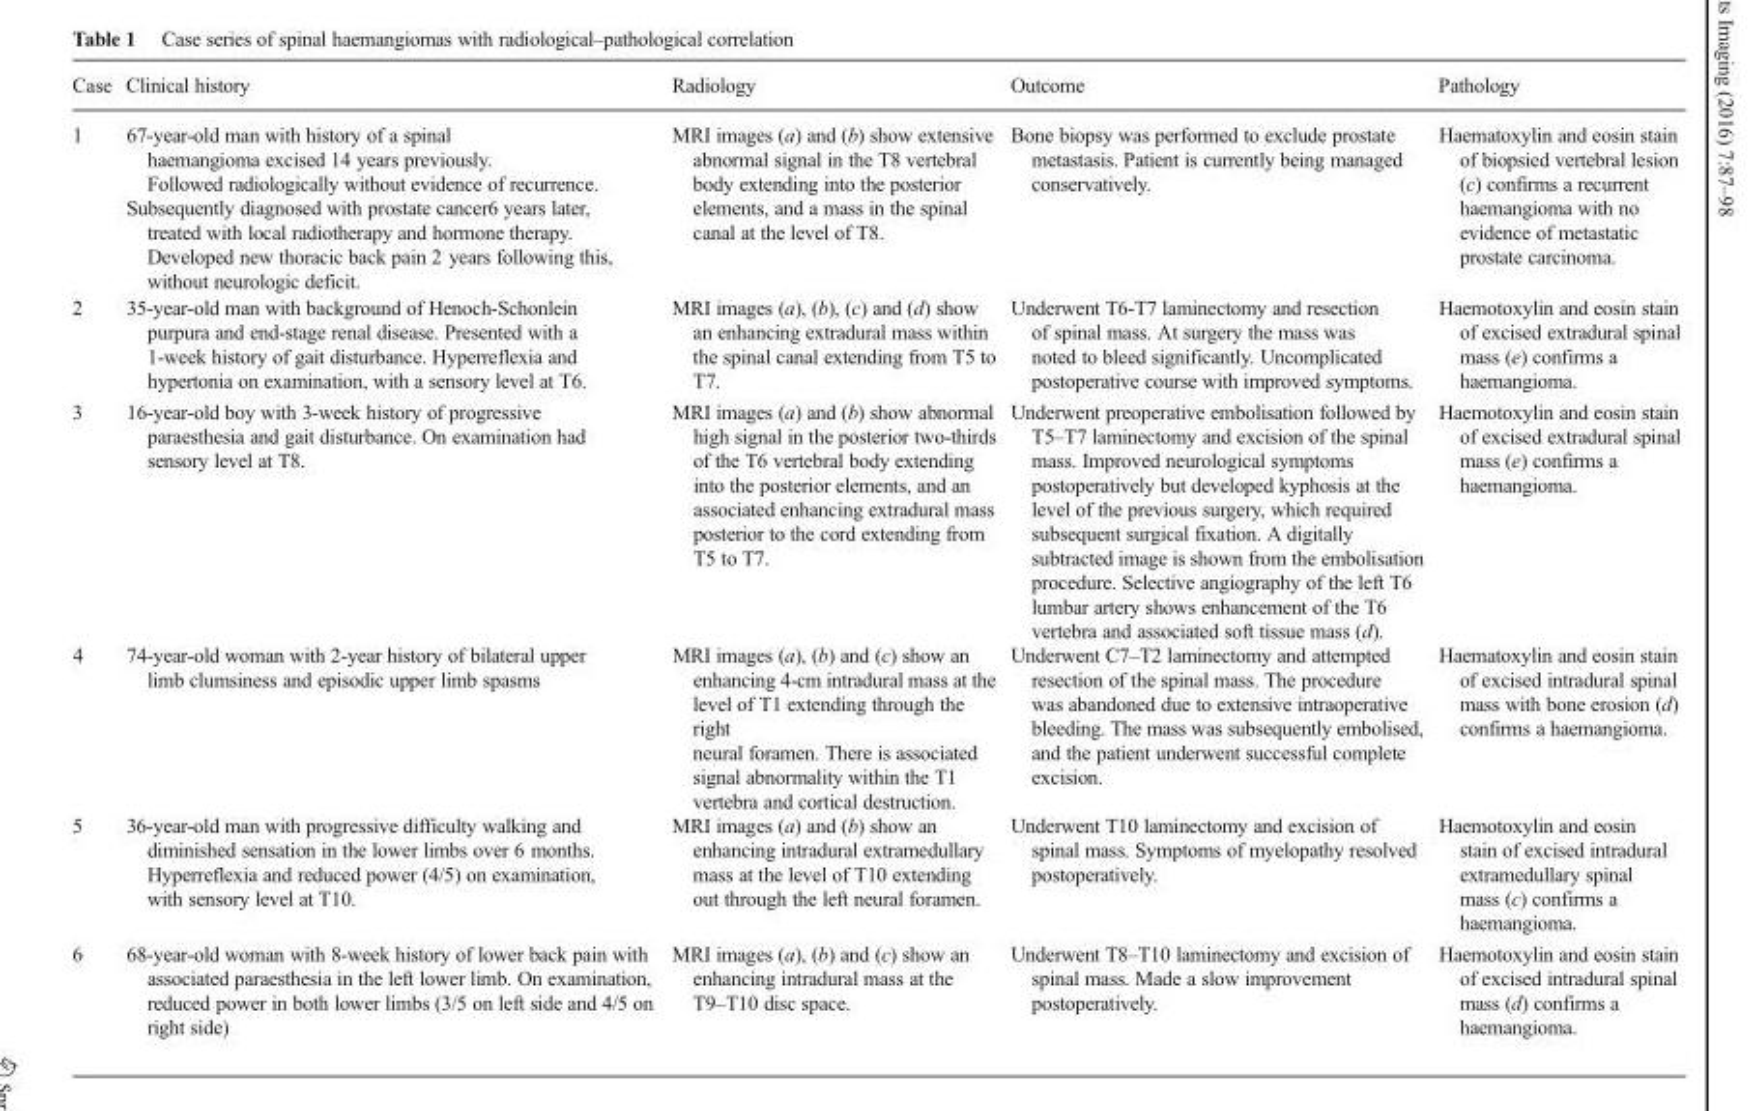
<table><thead><tr><td>Case</td><td>Clinical history</td><td>Radiology</td><td>Outcome</td><td>Pathology</td></tr></thead><tbody><tr><td>1</td><td>67-year-old man with history of a spinal haemangioma excised 14 years previously. Followed radiologically without evidence of recurrence. Subsequently diagnosed with prostate cancer6 years later, treated with local radiotherapy and hormone therapy. Developed new thoracic back pain 2 years following this, without neurologic deficit.</td><td>MRI images (a) and (b) show extensive abnormal signal in the T8 vertebral body extending into the posterior elements, and a mass in the spinal canal at the level of T8.</td><td>Bone biopsy was performed to exclude prostate metastasis. Patient is currently being managed conservatively.</td><td>Haematoxylin and eosin stain of biopsied vertebral lesion (c) confirms a recurrent haemangioma with no evidence of metastatic prostate carcinoma.</td></tr><tr><td>2</td><td>35-year-old man with background of Henoch-Schonlein purpura and end-stage renal disease. Presented with a 1-week history of gait disturbance. Hyperreflexia and hypertonia on examination, with a sensory level at T6.</td><td>MRI images (a), (b), (c) and (d) show an enhancing extradural mass within the spinal canal extending from T5 to T7.</td><td>Underwent T6-T7 laminectomy and resection of spinal mass. At surgery the mass was noted to bleed significantly. Uncomplicated postoperative course with improved symptoms.</td><td>Haemotoxylin and eosin stain of excised extradural spinal mass (e) confirms a haemangioma.</td></tr><tr><td>3</td><td>16-year-old boy with 3-week history of progressive paraesthesia and gait disturbance. On examination had sensory level at T8.</td><td>MRI images (a) and (b) show abnormal high signal in the posterior two-thirds of the T6 vertebral body extending into the posterior elements, and an associated enhancing extradural mass posterior to the cord extending from T5 to T7.</td><td>Underwent preoperative embolisation followed by T5–T7 laminectomy and excision of the spinal mass. Improved neurological symptoms postoperatively but developed kyphosis at the level of the previous surgery, which required subsequent surgical fixation. A digitally subtracted image is shown from the embolisation procedure. Selective angiography of the left T6 lumbar artery shows enhancement of the T6 vertebra and associated soft tissue mass (d).</td><td>Haemotoxylin and eosin stain of excised extradural spinal mass (e) confirms a haemangioma.</td></tr><tr><td>4</td><td>74-year-old woman with 2-year history of bilateral upper limb clumsiness and episodic upper limb spasms</td><td>MRI images (a), (b) and (c) show an enhancing 4-cm intradural mass at the level of T1 extending through the right neural foramen. There is associated signal abnormality within the T1 vertebra and cortical destruction.</td><td>Underwent C7–T2 laminectomy and attempted resection of the spinal mass. The procedure was abandoned due to extensive intraoperative bleeding. The mass was subsequently embolised, and the patient underwent successful complete excision.</td><td>Haematoxylin and eosin stain of excised intradural spinal mass with bone erosion (d) confirms a haemangioma.</td></tr><tr><td>5</td><td>36-year-old man with progressive difficulty walking and diminished sensation in the lower limbs over 6 months. Hyperreflexia and reduced power (4/5) on examination, with sensory level at T10.</td><td>MRI images (a) and (b) show an enhancing intradural extramedullary mass at the level of T10 extending out through the left neural foramen.</td><td>Underwent T10 laminectomy and excision of spinal mass. Symptoms of myelopathy resolved postoperatively.</td><td>Haemotoxylin and eosin stain of excised intradural extramedullary spinal mass (c) confirms a haemangioma.</td></tr><tr><td>6</td><td>68-year-old woman with 8-week history of lower back pain with associated paraesthesia in the left lower limb. On examination, reduced power in both lower limbs (3/5 on left side and 4/5 on right side)</td><td>MRI images (a), (b) and (c) show an enhancing intradural mass at the T9–T10 disc space.</td><td>Underwent T8–T10 laminectomy and excision of spinal mass. Made a slow improvement postoperatively.</td><td>Haemotoxylin and eosin stain of excised intradural spinal mass (d) confirms a haemangioma.</td></tr></tbody></table>